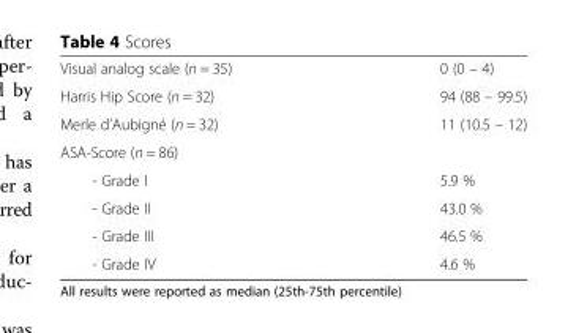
<table><tbody><tr><td>Visual analog scale (n = 35)</td><td>0 (0 – 4)</td></tr><tr><td>Harris Hip Score (n = 32)</td><td>94 (88 – 99.5)</td></tr><tr><td>Merle d’Aubigné (n = 32)</td><td>11 (10.5 – 12)</td></tr><tr><td colspan="2">ASA-Score (n = 86)</td></tr><tr><td>- Grade I</td><td>5.9 %</td></tr><tr><td>- Grade II</td><td>43.0 %</td></tr><tr><td>- Grade III</td><td>46.5 %</td></tr><tr><td>- Grade IV</td><td>4.6 %</td></tr></tbody></table>